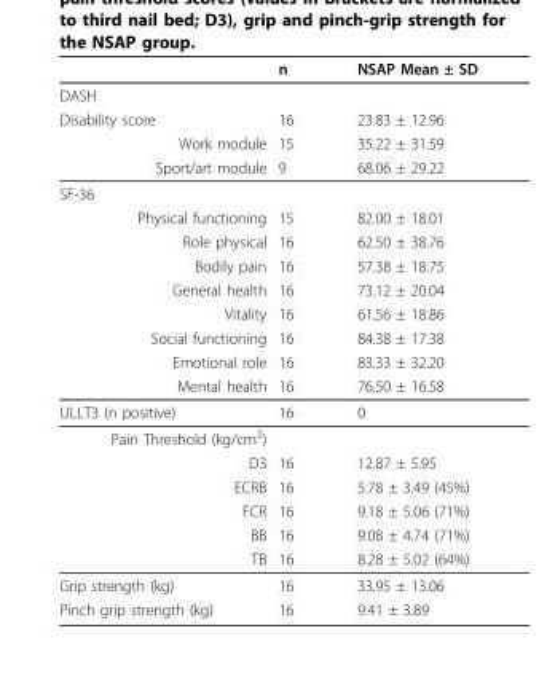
<table><thead><tr><td></td><td>n</td><td>NSAP Mean ± SD</td></tr></thead><tbody><tr><td colspan="3">DASH</td></tr><tr><td>Disability score</td><td>16</td><td>23.83 ± 12.96</td></tr><tr><td>Work module</td><td>15</td><td>35.22 ± 31.59</td></tr><tr><td>Sport/art module</td><td>9</td><td>68.06 ± 29.22</td></tr><tr><td colspan="3">SF-36</td></tr><tr><td>Physical functioning</td><td>15</td><td>82.00 ± 18.01</td></tr><tr><td>Role physical</td><td>16</td><td>62.50 ± 38.76</td></tr><tr><td>Bodily pain</td><td>16</td><td>57.38 ± 18.75</td></tr><tr><td>General health</td><td>16</td><td>73.12 ± 20.04</td></tr><tr><td>Vitality</td><td>16</td><td>61.56 ± 18.86</td></tr><tr><td>Social functioning</td><td>16</td><td>84.38 ± 17.38</td></tr><tr><td>Emotional role</td><td>16</td><td>83.33 ± 32.20</td></tr><tr><td>Mental health</td><td>16</td><td>76.50 ± 16.58</td></tr><tr><td>ULLT3 (n positive)</td><td>16</td><td>0</td></tr><tr><td colspan="3">Pain Threshold (kg/cm<sup>2</sup>)</td></tr><tr><td>D3</td><td>16</td><td>12.87 ± 5.95</td></tr><tr><td>ECRB</td><td>16</td><td>5.78 ± 3.49 (45%)</td></tr><tr><td>FCR</td><td>16</td><td>9.18 ± 5.06 (71%)</td></tr><tr><td>BB</td><td>16</td><td>9.08 ± 4.74 (71%)</td></tr><tr><td>TB</td><td>16</td><td>8.28 ± 5.02 (64%)</td></tr><tr><td>Grip strength (kg)</td><td>16</td><td>33.95 ± 13.06</td></tr><tr><td>Pinch grip strength (kg)</td><td>16</td><td>9.41 ± 3.89</td></tr></tbody></table>